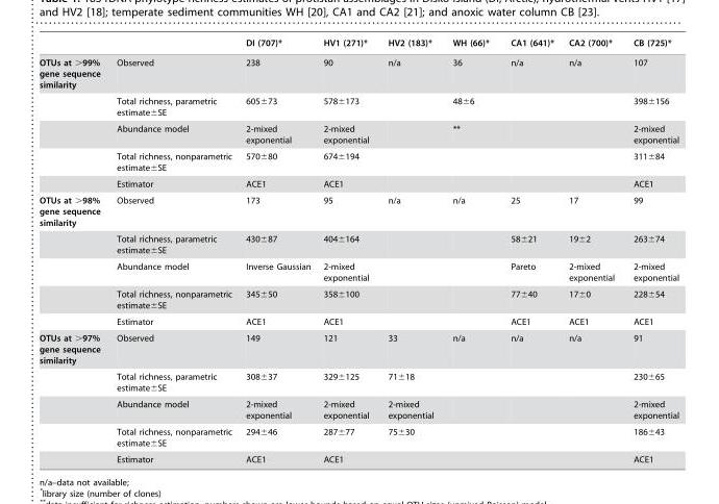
<table><thead><tr><td></td><td></td><td>DI (707)*</td><td>HV1 (271)*</td><td>HV2 (183)*</td><td>WH (66)*</td><td>CA1 (641)*</td><td>CA2 (700)*</td><td>CB (725)*</td></tr></thead><tbody><tr><td rowspan="5">OTUs at &gt;99% gene sequence similarity</td><td>Observed</td><td>238</td><td>90</td><td>n/a</td><td>36</td><td>n/a</td><td>n/a</td><td>107</td></tr><tr><td>Total richness, parametric estimate±SE</td><td>605±73</td><td>578±173</td><td></td><td>48±6</td><td></td><td></td><td>398±156</td></tr><tr><td>Abundance model</td><td>2-mixed exponential</td><td>2-mixed exponential</td><td></td><td>**</td><td></td><td></td><td>2-mixed exponential</td></tr><tr><td>Total richness, nonparametric estimate±SE</td><td>570±80</td><td>674±194</td><td></td><td></td><td></td><td></td><td>311±84</td></tr><tr><td>Estimator</td><td>ACE1</td><td>ACE1</td><td></td><td></td><td></td><td></td><td>ACE1</td></tr><tr><td rowspan="5">OTUs at &gt;98% gene sequence similarity</td><td>Observed</td><td>173</td><td>95</td><td>n/a</td><td>n/a</td><td>25</td><td>17</td><td>99</td></tr><tr><td>Total richness, parametric estimate±SE</td><td>430±87</td><td>404±164</td><td></td><td></td><td>58±21</td><td>19±2</td><td>263±74</td></tr><tr><td>Abundance model</td><td>Inverse Gaussian</td><td>2-mixed exponential</td><td></td><td></td><td>Pareto</td><td>2-mixed exponential</td><td>2-mixed exponential</td></tr><tr><td>Total richness, nonparametric estimate±SE</td><td>345±50</td><td>358±100</td><td></td><td></td><td>77±40</td><td>17±0</td><td>228±54</td></tr><tr><td>Estimator</td><td>ACE1</td><td>ACE1</td><td></td><td></td><td>ACE1</td><td>ACE1</td><td>ACE1</td></tr><tr><td rowspan="5">OTUs at &gt;97% gene sequence similarity</td><td>Observed</td><td>149</td><td>121</td><td>33</td><td>n/a</td><td>n/a</td><td>n/a</td><td>91</td></tr><tr><td>Total richness, parametric estimate±SE</td><td>308±37</td><td>329±125</td><td>71±18</td><td></td><td></td><td></td><td>230±65</td></tr><tr><td>Abundance model</td><td>2-mixed exponential</td><td>2-mixed exponential</td><td>2-mixed exponential</td><td></td><td></td><td></td><td>2-mixed exponential</td></tr><tr><td>Total richness, nonparametric estimate±SE</td><td>294±46</td><td>287±77</td><td>75±30</td><td></td><td></td><td></td><td>186±43</td></tr><tr><td>Estimator</td><td>ACE1</td><td>ACE1</td><td></td><td></td><td></td><td></td><td>ACE1</td></tr></tbody></table>